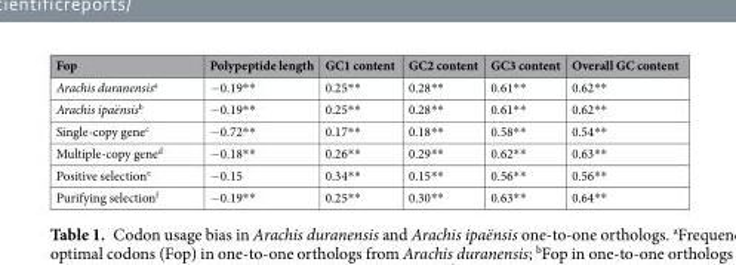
<table><thead><tr><td>Fop</td><td>Polypeptide length</td><td>GC1 content</td><td>GC2 content</td><td>GC3 content</td><td>Overall GC content</td></tr></thead><tbody><tr><td>Arachis duranensis<sup>a</sup></td><td>−0.19**</td><td>0.25**</td><td>0.28**</td><td>0.61**</td><td>0.62**</td></tr><tr><td>Arachis ipaënsis<sup>b</sup></td><td>−0.19**</td><td>0.25**</td><td>0.28**</td><td>0.61**</td><td>0.62**</td></tr><tr><td>Single-copy gene<sup>c</sup></td><td>−0.72**</td><td>0.17**</td><td>0.18**</td><td>0.58**</td><td>0.54**</td></tr><tr><td>Multiple-copy gene<sup>d</sup></td><td>−0.18**</td><td>0.26**</td><td>0.29**</td><td>0.62**</td><td>0.63**</td></tr><tr><td>Positive selection<sup>e</sup></td><td>−0.15</td><td>0.34**</td><td>0.15**</td><td>0.56**</td><td>0.56**</td></tr><tr><td>Purifying selection<sup>f</sup></td><td>−0.19**</td><td>0.25**</td><td>0.30**</td><td>0.63**</td><td>0.64**</td></tr></tbody></table>